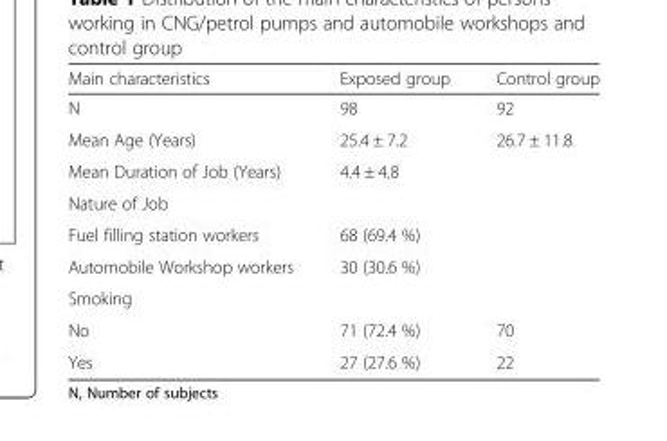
<table><thead><tr><td>Main characteristics</td><td>Exposed group</td><td>Control group</td></tr></thead><tbody><tr><td>N</td><td>98</td><td>92</td></tr><tr><td>Mean Age (Years)</td><td>25.4 ± 7.2</td><td>26.7 ± 11.8</td></tr><tr><td>Mean Duration of Job (Years)</td><td>4.4 ± 4.8</td><td></td></tr><tr><td colspan="3">Nature of Job</td></tr><tr><td>Fuel filling station workers</td><td>68 (69.4 %)</td><td></td></tr><tr><td>Automobile Workshop workers</td><td>30 (30.6 %)</td><td></td></tr><tr><td colspan="3">Smoking</td></tr><tr><td>No</td><td>71 (72.4 %)</td><td>70</td></tr><tr><td>Yes</td><td>27 (27.6 %)</td><td>22</td></tr></tbody></table>